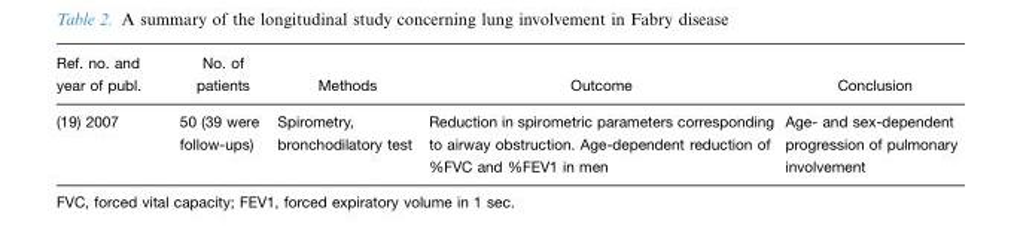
<table><thead><tr><td>Ref. no. and year of publ.</td><td>No. of patients</td><td>Methods</td><td>Outcome</td><td>Conclusion</td></tr></thead><tbody><tr><td>(19) 2007</td><td>50 (39 were follow-ups)</td><td>Spirometry, bronchodilatory test</td><td>Reduction in spirometric parameters corresponding to airway obstruction. Age-dependent reduction of %FVC and %FEV1 in men</td><td>Age- and sex-dependent progression of pulmonary involvement</td></tr></tbody></table>